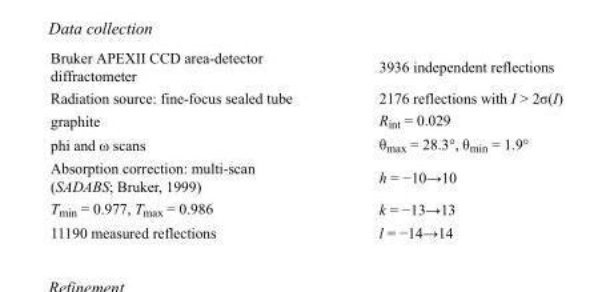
<table><tbody><tr><td>Bruker APEXII CCD area-detector diffractometer</td><td>3936 independent reflections</td></tr><tr><td>Radiation source: fine-focus sealed tube</td><td>2176 reflections with I &gt; 2σ(I)</td></tr><tr><td>graphite</td><td>R<sub>int</sub> = 0.029</td></tr><tr><td>phi and ω scans</td><td>θ<sub>max</sub> = 28.3°, θ<sub>min</sub> = 1.9°</td></tr><tr><td>Absorption correction: multi-scan (SADABS; Bruker, 1999)</td><td>h = −10→10</td></tr><tr><td>T<sub>min</sub> = 0.977, T<sub>max</sub> = 0.986</td><td>k = −13→13</td></tr><tr><td>11190 measured reflections</td><td>l = −14→14</td></tr></tbody></table>